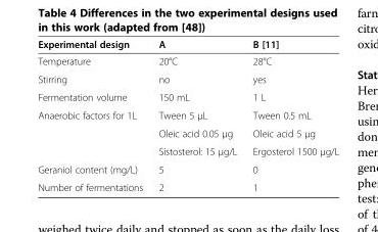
<table><thead><tr><td>Experimental design</td><td>A</td><td>B [11]</td></tr></thead><tbody><tr><td>Temperature</td><td>20°C</td><td>28°C</td></tr><tr><td>Stirring</td><td>no</td><td>yes</td></tr><tr><td>Fermentation volume</td><td>150 mL</td><td>1 L</td></tr><tr><td rowspan="3">Anaerobic factors for 1L</td><td>Tween 5 μL</td><td>Tween 0.5 mL</td></tr><tr><td>Oleic acid 0.05 μg</td><td>Oleic acid 5 μg</td></tr><tr><td>Sistosterol: 15 μg/L</td><td>Ergosterol 1500 μg/L</td></tr><tr><td>Geraniol content (mg/L)</td><td>5</td><td>0</td></tr><tr><td>Number of fermentations</td><td>2</td><td>1</td></tr></tbody></table>